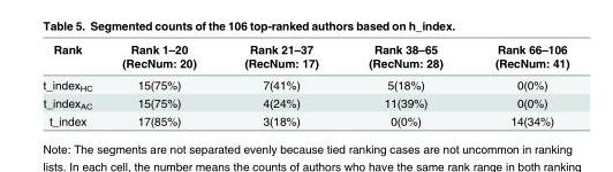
<table><thead><tr><td>Rank</td><td>Rank 1–20 (RecNum: 20)</td><td>Rank 21–37 (RecNum: 17)</td><td>Rank 38–65 (RecNum: 28)</td><td>Rank 66–106 (RecNum: 41)</td></tr></thead><tbody><tr><td>t_index<sub>HC</sub></td><td>15(75%)</td><td>7(41%)</td><td>5(18%)</td><td>0(0%)</td></tr><tr><td>t_index<sub>AC</sub></td><td>15(75%)</td><td>4(24%)</td><td>11(39%)</td><td>0(0%)</td></tr><tr><td>t_index</td><td>17(85%)</td><td>3(18%)</td><td>0(0%)</td><td>14(34%)</td></tr></tbody></table>